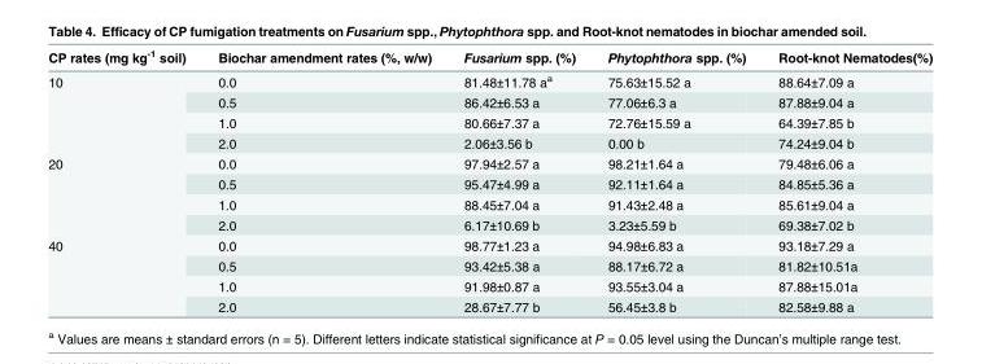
<table><thead><tr><td>CP rates (mg kg<sup>-1</sup> soil)</td><td>Biochar amendment rates (%, w/w)</td><td>Fusarium spp. (%)</td><td>Phytophthora spp. (%)</td><td>Root-knot Nematodes(%)</td></tr></thead><tbody><tr><td rowspan="4">10</td><td>0.0</td><td>81.48±11.78 a<sup>a</sup></td><td>75.63±15.52 a</td><td>88.64±7.09 a</td></tr><tr><td>0.5</td><td>86.42±6.53 a</td><td>77.06±6.3 a</td><td>87.88±9.04 a</td></tr><tr><td>1.0</td><td>80.66±7.37 a</td><td>72.76±15.59 a</td><td>64.39±7.85 b</td></tr><tr><td>2.0</td><td>2.06±3.56 b</td><td>0.00 b</td><td>74.24±9.04 b</td></tr><tr><td rowspan="4">20</td><td>0.0</td><td>97.94±2.57 a</td><td>98.21±1.64 a</td><td>79.48±6.06 a</td></tr><tr><td>0.5</td><td>95.47±4.99 a</td><td>92.11±1.64 a</td><td>84.85±5.36 a</td></tr><tr><td>1.0</td><td>88.45±7.04 a</td><td>91.43±2.48 a</td><td>85.61±9.04 a</td></tr><tr><td>2.0</td><td>6.17±10.69 b</td><td>3.23±5.59 b</td><td>69.38±7.02 b</td></tr><tr><td rowspan="4">40</td><td>0.0</td><td>98.77±1.23 a</td><td>94.98±6.83 a</td><td>93.18±7.29 a</td></tr><tr><td>0.5</td><td>93.42±5.38 a</td><td>88.17±6.72 a</td><td>81.82±10.51a</td></tr><tr><td>1.0</td><td>91.98±0.87 a</td><td>93.55±3.04 a</td><td>87.88±15.01a</td></tr><tr><td>2.0</td><td>28.67±7.77 b</td><td>56.45±3.8 b</td><td>82.58±9.88 a</td></tr></tbody></table>